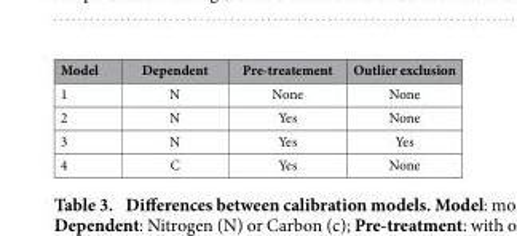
<table><thead><tr><td>Model</td><td>Dependent</td><td>Pre-treatement</td><td>Outlier exclusion</td></tr></thead><tbody><tr><td>1</td><td>N</td><td>None</td><td>None</td></tr><tr><td>2</td><td>N</td><td>Yes</td><td>None</td></tr><tr><td>3</td><td>N</td><td>Yes</td><td>Yes</td></tr><tr><td>4</td><td>C</td><td>Yes</td><td>None</td></tr></tbody></table>